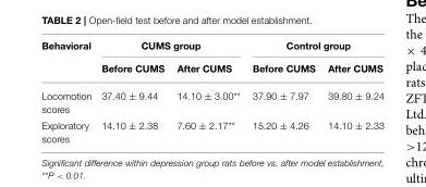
<table><thead><tr><td rowspan="2">Behavioral</td><td colspan="2">CUMS group</td><td colspan="2">Control group</td></tr><tr><td>Before CUMS</td><td>After CUMS</td><td>Before CUMS</td><td>After CUMS</td></tr></thead><tbody><tr><td>Locomotion scores</td><td>37.40 ± 9.44</td><td>14.10 ± 3.00**</td><td>37.90 ± 7.97</td><td>39.80 ± 9.24</td></tr><tr><td>Exploratory scores</td><td>14.10 ± 2.38</td><td>7.60 ± 2.17**</td><td>15.20 ± 4.26</td><td>14.10 ± 2.33</td></tr></tbody></table>